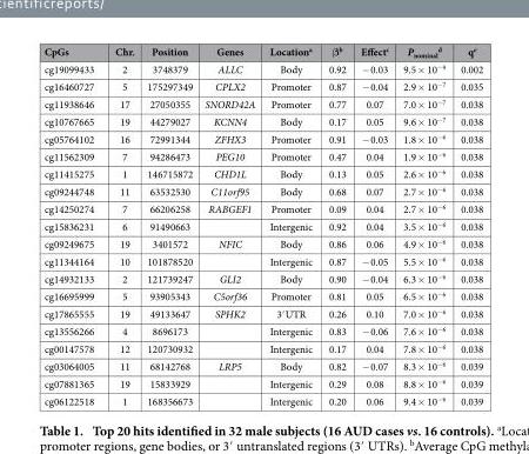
<table><thead><tr><td>CpGs</td><td>Chr.</td><td>Position</td><td>Genes</td><td>Location<sup>a</sup></td><td>β<sup>b</sup></td><td>Effect<sup>c</sup></td><td>P<sub>nominal</sub> <sup>d</sup></td><td>q<sup>e</sup></td></tr></thead><tbody><tr><td>cg19099433</td><td>2</td><td>3748379</td><td>ALLC</td><td>Body</td><td>0.92</td><td>− 0.03</td><td>9.5 × 10<sup>−9</sup></td><td>0.002</td></tr><tr><td>cg16460727</td><td>5</td><td>175297349</td><td>CPLX2</td><td>Promoter</td><td>0.87</td><td>− 0.04</td><td>2.9 × 10<sup>−7</sup></td><td>0.035</td></tr><tr><td>cg11938646</td><td>17</td><td>27050355</td><td>SNORD42A</td><td>Promoter</td><td>0.77</td><td>0.07</td><td>7.0 × 10<sup>−7</sup></td><td>0.038</td></tr><tr><td>cg10767665</td><td>19</td><td>44279027</td><td>KCNN4</td><td>Body</td><td>0.17</td><td>0.05</td><td>9.6 × 10<sup>−7</sup></td><td>0.038</td></tr><tr><td>cg05764102</td><td>16</td><td>72991344</td><td>ZFHX3</td><td>Promoter</td><td>0.91</td><td>− 0.03</td><td>1.8 × 10<sup>−6</sup></td><td>0.038</td></tr><tr><td>cg11562309</td><td>7</td><td>94286473</td><td>PEG10</td><td>Promoter</td><td>0.47</td><td>0.04</td><td>1.9 × 10<sup>−6</sup></td><td>0.038</td></tr><tr><td>cg11415275</td><td>1</td><td>146715872</td><td>CHD1L</td><td>Body</td><td>0.13</td><td>0.05</td><td>2.6 × 10<sup>−6</sup></td><td>0.038</td></tr><tr><td>cg09244748</td><td>11</td><td>63532530</td><td>C11orf95</td><td>Body</td><td>0.68</td><td>0.07</td><td>2.7 × 10<sup>−6</sup></td><td>0.038</td></tr><tr><td>cg14250274</td><td>7</td><td>66206258</td><td>RABGEF1</td><td>Promoter</td><td>0.09</td><td>0.04</td><td>2.7 × 10<sup>−6</sup></td><td>0.038</td></tr><tr><td>cg15836231</td><td>6</td><td>91490663</td><td></td><td>Intergenic</td><td>0.92</td><td>0.04</td><td>3.5 × 10<sup>−6</sup></td><td>0.038</td></tr><tr><td>cg09249675</td><td>19</td><td>3401572</td><td>NFIC</td><td>Body</td><td>0.86</td><td>0.06</td><td>4.9 × 10<sup>−6</sup></td><td>0.038</td></tr><tr><td>cg11344164</td><td>10</td><td>101878520</td><td></td><td>Intergenic</td><td>0.87</td><td>− 0.05</td><td>5.5 × 10<sup>−6</sup></td><td>0.038</td></tr><tr><td>cg14932133</td><td>2</td><td>121739247</td><td>GLI2</td><td>Body</td><td>0.90</td><td>− 0.04</td><td>6.3 × 10<sup>−6</sup></td><td>0.038</td></tr><tr><td>cg16695999</td><td>5</td><td>93905343</td><td>C5orf36</td><td>Promoter</td><td>0.81</td><td>0.05</td><td>6.5 × 10<sup>−6</sup></td><td>0.038</td></tr><tr><td>cg17865555</td><td>19</td><td>49133647</td><td>SPHK2</td><td>3′ UTR</td><td>0.26</td><td>0.10</td><td>7.0 × 10<sup>−6</sup></td><td>0.038</td></tr><tr><td>cg13556266</td><td>4</td><td>8696173</td><td></td><td>Intergenic</td><td>0.83</td><td>− 0.06</td><td>7.6 × 10<sup>−6</sup></td><td>0.038</td></tr><tr><td>cg00147578</td><td>12</td><td>120730932</td><td></td><td>Intergenic</td><td>0.17</td><td>0.04</td><td>7.8 × 10<sup>−6</sup></td><td>0.038</td></tr><tr><td>cg03064005</td><td>11</td><td>68142768</td><td>LRP5</td><td>Body</td><td>0.82</td><td>− 0.07</td><td>8.3 × 10<sup>−6</sup></td><td>0.039</td></tr><tr><td>cg07881365</td><td>19</td><td>15833929</td><td></td><td>Intergenic</td><td>0.29</td><td>0.08</td><td>8.8 × 10<sup>−6</sup></td><td>0.039</td></tr><tr><td>cg06122518</td><td>1</td><td>168356673</td><td></td><td>Intergenic</td><td>0.20</td><td>0.06</td><td>9.4 × 10<sup>−6</sup></td><td>0.039</td></tr></tbody></table>